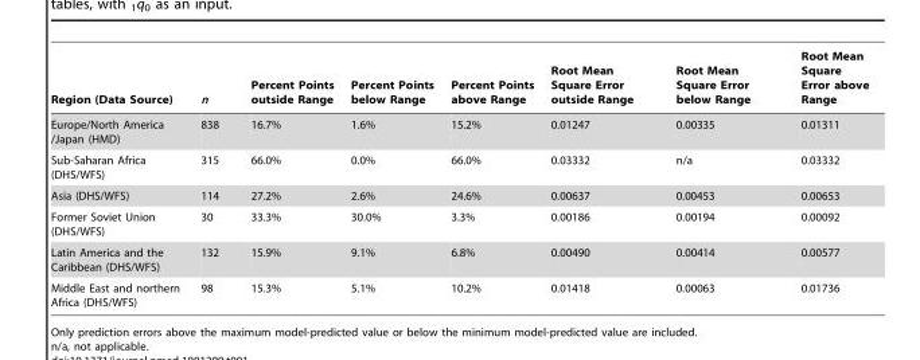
<table><thead><tr><td>Region (Data Source)</td><td>n</td><td>Percent Points outside Range</td><td>Percent Points below Range</td><td>Percent Points above Range</td><td>Root Mean Square Error outside Range</td><td>Root Mean Square Error below Range</td><td>Root Mean Square Error above Range</td></tr></thead><tbody><tr><td>Europe/North America /Japan (HMD)</td><td>838</td><td>16.7%</td><td>1.6%</td><td>15.2%</td><td>0.01247</td><td>0.00335</td><td>0.01311</td></tr><tr><td>Sub-Saharan Africa (DHS/WFS)</td><td>315</td><td>66.0%</td><td>0.0%</td><td>66.0%</td><td>0.03332</td><td>n/a</td><td>0.03332</td></tr><tr><td>Asia (DHS/WFS)</td><td>114</td><td>27.2%</td><td>2.6%</td><td>24.6%</td><td>0.00637</td><td>0.00453</td><td>0.00653</td></tr><tr><td>Former Soviet Union (DHS/WFS)</td><td>30</td><td>33.3%</td><td>30.0%</td><td>3.3%</td><td>0.00186</td><td>0.00194</td><td>0.00092</td></tr><tr><td>Latin America and the Caribbean (DHS/WFS)</td><td>132</td><td>15.9%</td><td>9.1%</td><td>6.8%</td><td>0.00490</td><td>0.00414</td><td>0.00577</td></tr><tr><td>Middle East and northern Africa (DHS/WFS)</td><td>98</td><td>15.3%</td><td>5.1%</td><td>10.2%</td><td>0.01418</td><td>0.00063</td><td>0.01736</td></tr></tbody></table>